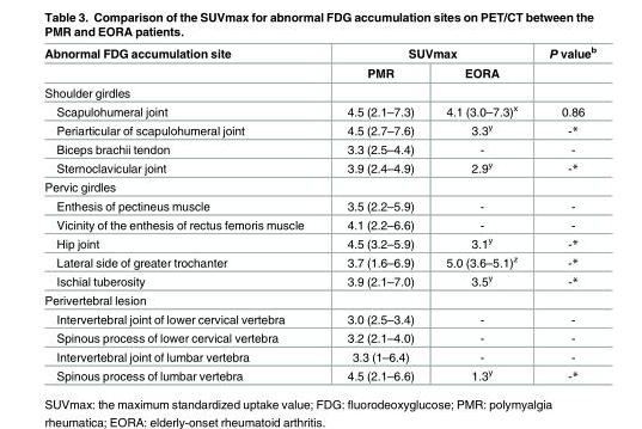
<table><thead><tr><td rowspan="2">Abnormal FDG accumulation site</td><td colspan="2">SUVmax</td><td rowspan="2">P value<sup>b</sup></td></tr><tr><td>PMR</td><td>EORA</td></tr></thead><tbody><tr><td colspan="4">Shoulder girdles</td></tr><tr><td>Scapulohumeral joint</td><td>4.5 (2.1–7.3)</td><td>4.1 (3.0–7.3)<sup>x</sup></td><td>0.86</td></tr><tr><td>Periarticular of scapulohumeral joint</td><td>4.5 (2.7–7.6)</td><td>3.3<sup>y</sup></td><td>-*</td></tr><tr><td>Biceps brachii tendon</td><td>3.3 (2.5–4.4)</td><td>-</td><td>-</td></tr><tr><td>Sternoclavicular joint</td><td>3.9 (2.4–4.9)</td><td>2.9<sup>y</sup></td><td>-*</td></tr><tr><td colspan="4">Pervic girdles</td></tr><tr><td>Enthesis of pectineus muscle</td><td>3.5 (2.2–5.9)</td><td>-</td><td>-</td></tr><tr><td>Vicinity of the enthesis of rectus femoris muscle</td><td>4.1 (2.2–6.6)</td><td>-</td><td>-</td></tr><tr><td>Hip joint</td><td>4.5 (3.2–5.9)</td><td>3.1<sup>y</sup></td><td>-*</td></tr><tr><td>Lateral side of greater trochanter</td><td>3.7 (1.6–6.9)</td><td>5.0 (3.6–5.1)<sup>z</sup></td><td>-*</td></tr><tr><td>Ischial tuberosity</td><td>3.9 (2.1–7.0)</td><td>3.5<sup>y</sup></td><td>-*</td></tr><tr><td colspan="4">Perivertebral lesion</td></tr><tr><td>Intervertebral joint of lower cervical vertebra</td><td>3.0 (2.5–3.4)</td><td>-</td><td>-</td></tr><tr><td>Spinous process of lower cervical vertebra</td><td>3.2 (2.1–4.0)</td><td>-</td><td>-</td></tr><tr><td>Intervertebral joint of lumbar vertebra</td><td>3.3 (1–6.4)</td><td>-</td><td>-</td></tr><tr><td>Spinous process of lumbar vertebra</td><td>4.5 (2.1–6.6)</td><td>1.3<sup>y</sup></td><td>-*</td></tr></tbody></table>